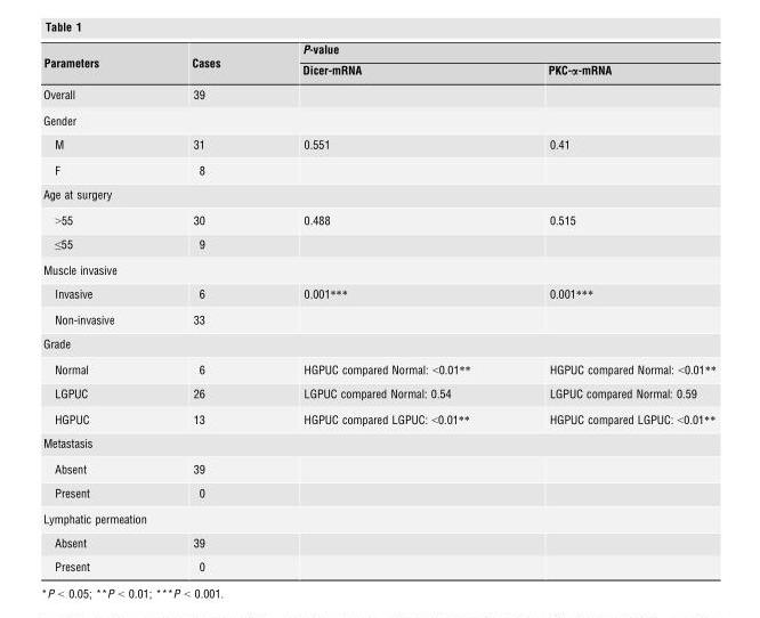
<table><thead><tr><td rowspan="2">Parameters</td><td rowspan="2">Cases</td><td colspan="2">P-value</td></tr><tr><td>Dicer-mRNA</td><td>PKC-α-mRNA</td></tr></thead><tbody><tr><td>Overall</td><td>39</td><td></td><td></td></tr><tr><td colspan="4">Gender</td></tr><tr><td>M</td><td>31</td><td>0.551</td><td>0.41</td></tr><tr><td>F</td><td>8</td><td></td><td></td></tr><tr><td colspan="4">Age at surgery</td></tr><tr><td>&gt;55</td><td>30</td><td>0.488</td><td>0.515</td></tr><tr><td>≤55</td><td>9</td><td></td><td></td></tr><tr><td colspan="4">Muscle invasive</td></tr><tr><td>Invasive</td><td>6</td><td>0.001***</td><td>0.001***</td></tr><tr><td>Non-invasive</td><td>33</td><td></td><td></td></tr><tr><td colspan="4">Grade</td></tr><tr><td>Normal</td><td>6</td><td>HGPUC compared Normal: &lt;0.01**</td><td>HGPUC compared Normal: &lt;0.01**</td></tr><tr><td>LGPUC</td><td>26</td><td>LGPUC compared Normal: 0.54</td><td>LGPUC compared Normal: 0.59</td></tr><tr><td>HGPUC</td><td>13</td><td>HGPUC compared LGPUC: &lt;0.01**</td><td>HGPUC compared LGPUC: &lt;0.01**</td></tr><tr><td colspan="4">Metastasis</td></tr><tr><td>Absent</td><td>39</td><td></td><td></td></tr><tr><td>Present</td><td>0</td><td></td><td></td></tr><tr><td colspan="4">Lymphatic permeation</td></tr><tr><td>Absent</td><td>39</td><td></td><td></td></tr><tr><td>Present</td><td>0</td><td></td><td></td></tr></tbody></table>